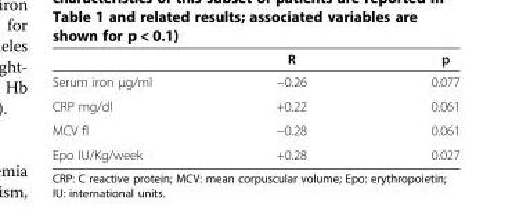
<table><thead><tr><td></td><td>R</td><td>p</td></tr></thead><tbody><tr><td>Serum iron μg/ml</td><td>−0.26</td><td>0.077</td></tr><tr><td>CRP mg/dl</td><td>+0.22</td><td>0.061</td></tr><tr><td>MCV fl</td><td>−0.28</td><td>0.061</td></tr><tr><td>Epo IU/Kg/week</td><td>+0.28</td><td>0.027</td></tr></tbody></table>